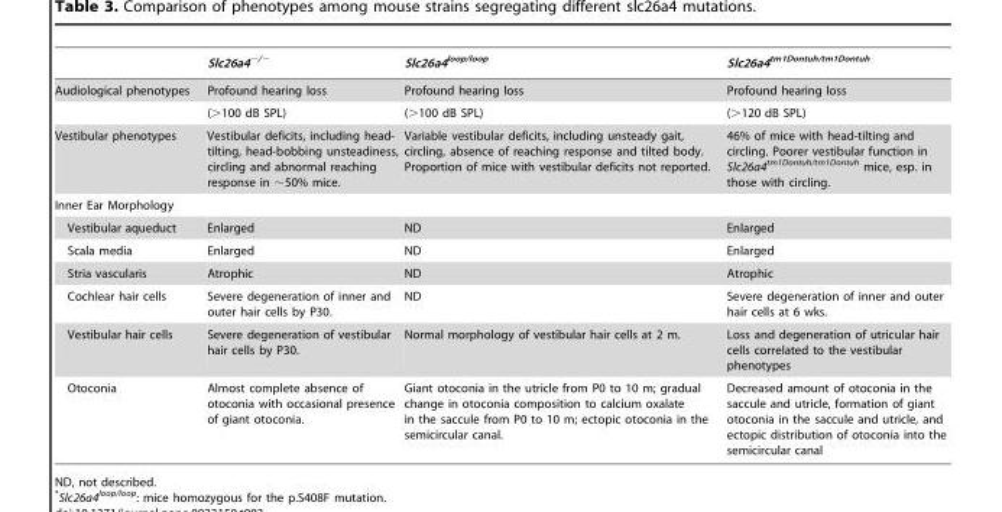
<table><thead><tr><td></td><td>Slc26a4<sup>−/−</sup></td><td>Slc26a4<sup>loop/loop</sup></td><td>Slc26a4<sup>tm1Dontuh/tm1Dontuh</sup></td></tr></thead><tbody><tr><td rowspan="2">Audiological phenotypes</td><td>Profound hearing loss</td><td>Profound hearing loss</td><td>Profound hearing loss</td></tr><tr><td>(&gt;100 dB SPL)</td><td>(&gt;100 dB SPL)</td><td>(&gt;120 dB SPL)</td></tr><tr><td>Vestibular phenotypes</td><td>Vestibular deficits, including head- tilting, head-bobbing unsteadiness, circling and abnormal reaching response in ∼50% mice.</td><td>Variable vestibular deficits, including unsteady gait, circling, absence of reaching response and tilted body. Proportion of mice with vestibular deficits not reported.</td><td>46% of mice with head-tilting and circling. Poorer vestibular function in Slc26a4<sup>tm1Dontuh/tm1Dontuh</sup> mice, esp. in those with circling.</td></tr><tr><td colspan="4">Inner Ear Morphology</td></tr><tr><td>Vestibular aqueduct</td><td>Enlarged</td><td>ND</td><td>Enlarged</td></tr><tr><td>Scala media</td><td>Enlarged</td><td>ND</td><td>Enlarged</td></tr><tr><td>Stria vascularis</td><td>Atrophic</td><td>ND</td><td>Atrophic</td></tr><tr><td>Cochlear hair cells</td><td>Severe degeneration of inner and outer hair cells by P30.</td><td>ND</td><td>Severe degeneration of inner and outer hair cells at 6 wks.</td></tr><tr><td>Vestibular hair cells</td><td>Severe degeneration of vestibular hair cells by P30.</td><td>Normal morphology of vestibular hair cells at 2 m.</td><td>Loss and degeneration of utricular hair cells correlated to the vestibular phenotypes</td></tr><tr><td>Otoconia</td><td>Almost complete absence of otoconia with occasional presence of giant otoconia.</td><td>Giant otoconia in the utricle from P0 to 10 m; gradual change in otoconia composition to calcium oxalate in the saccule from P0 to 10 m; ectopic otoconia in the semicircular canal.</td><td>Decreased amount of otoconia in the saccule and utricle, formation of giant otoconia in the saccule and utricle, and ectopic distribution of otoconia into the semicircular canal</td></tr></tbody></table>